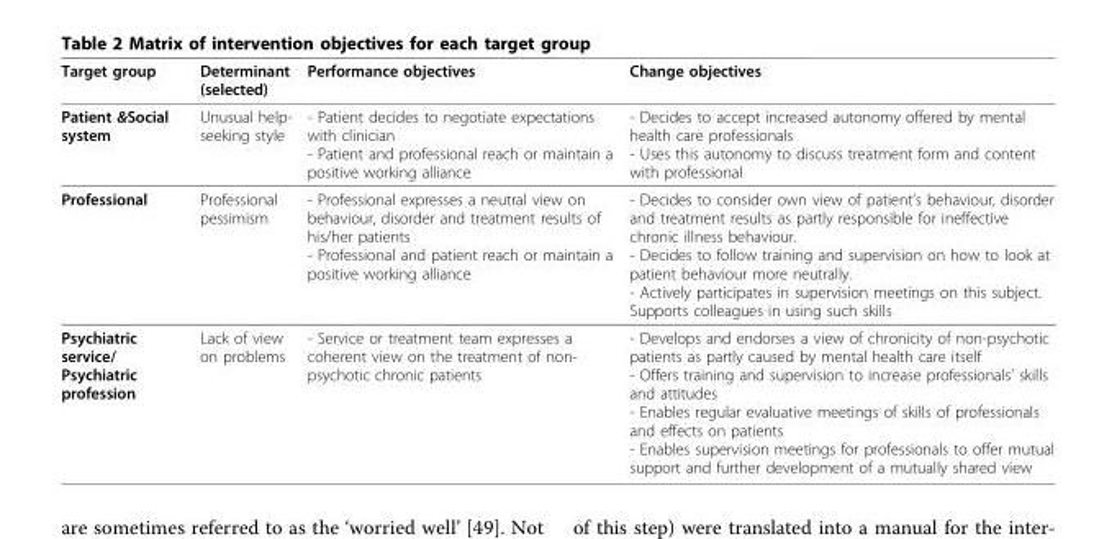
<table><thead><tr><td>Target group</td><td>Determinant (selected)</td><td>Performance objectives</td><td>Change objectives</td></tr></thead><tbody><tr><td>Patient &amp;Social system</td><td>Unusual help- seeking style</td><td>- Patient decides to negotiate expectations with clinician - Patient and professional reach or maintain a positive working alliance</td><td>- Decides to accept increased autonomy offered by mental health care professionals - Uses this autonomy to discuss treatment form and content with professional</td></tr><tr><td>Professional</td><td>Professional pessimism</td><td>- Professional expresses a neutral view on behaviour, disorder and treatment results of his/her patients - Professional and patient reach or maintain a positive working alliance</td><td>- Decides to consider own view of patient’s behaviour, disorder and treatment results as partly responsible for ineffective chronic illness behaviour. - Decides to follow training and supervision on how to look at patient behaviour more neutrally. - Actively participates in supervision meetings on this subject. Supports colleagues in using such skills</td></tr><tr><td>Psychiatric service/ Psychiatric profession</td><td>Lack of view on problems</td><td>- Service or treatment team expresses a coherent view on the treatment of non- psychotic chronic patients</td><td>- Develops and endorses a view of chronicity of non-psychotic patients as partly caused by mental health care itself - Offers training and supervision to increase professionals’ skills and attitudes - Enables regular evaluative meetings of skills of professionals and effects on patients - Enables supervision meetings for professionals to offer mutual support and further development of a mutually shared view</td></tr></tbody></table>